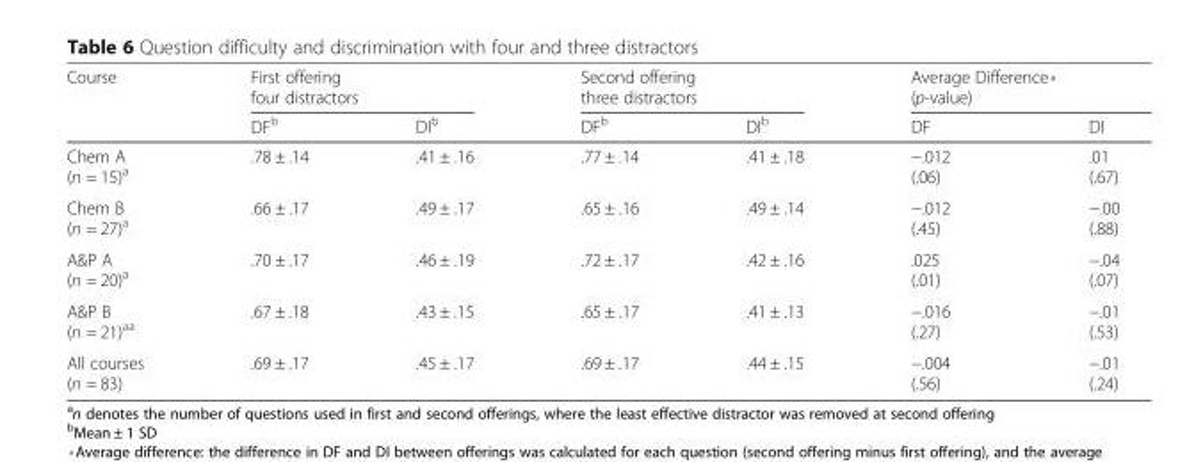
<table><thead><tr><td rowspan="2">Course</td><td colspan="2">First offering four distractors</td><td colspan="2">Second offering three distractors</td><td colspan="2">Average Difference⋄ (p-value)</td></tr><tr><td>DF<sup>b</sup></td><td>DI<sup>b</sup></td><td>DF<sup>b</sup></td><td>DI<sup>b</sup></td><td>DF</td><td>DI</td></tr></thead><tbody><tr><td>Chem A (n = 15)<sup>a</sup></td><td>.78 ± .14</td><td>.41 ± .16</td><td>.77 ± .14</td><td>.41 ± .18</td><td>−.012 (.06)</td><td>.01 (.67)</td></tr><tr><td>Chem B (n = 27)<sup>a</sup></td><td>.66 ± .17</td><td>.49 ± .17</td><td>.65 ± .16</td><td>.49 ± .14</td><td>−.012 (.45)</td><td>−.00 (.88)</td></tr><tr><td>A&amp;P A (n = 20)<sup>a</sup></td><td>.70 ± .17</td><td>.46 ± .19</td><td>.72 ± .17</td><td>.42 ± .16</td><td>.025 (.01)</td><td>−.04 (.07)</td></tr><tr><td>A&amp;P B (n = 21)<sup>aa</sup></td><td>.67 ± .18</td><td>.43 ± .15</td><td>.65 ± .17</td><td>.41 ± .13</td><td>−.016 (.27)</td><td>−.01 (.53)</td></tr><tr><td>All courses (n = 83)</td><td>.69 ± .17</td><td>.45 ± .17</td><td>.69 ± .17</td><td>.44 ± .15</td><td>−.004 (.56)</td><td>−.01 (.24)</td></tr></tbody></table>